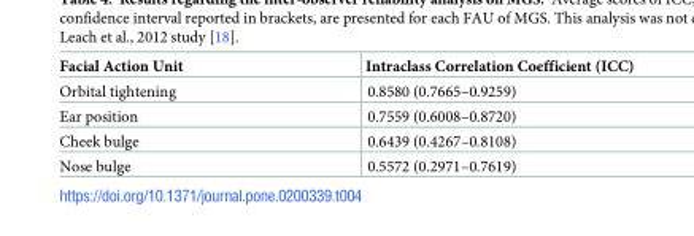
<table><thead><tr><td>Facial Action Unit</td><td>Intraclass Correlation Coefficient (ICC)</td></tr></thead><tbody><tr><td>Orbital tightening</td><td>0.8580 (0.7665–0.9259)</td></tr><tr><td>Ear position</td><td>0.7559 (0.6008–0.8720)</td></tr><tr><td>Cheek bulge</td><td>0.6439 (0.4267–0.8108)</td></tr><tr><td>Nose bulge</td><td>0.5572 (0.2971–0.7619)</td></tr></tbody></table>